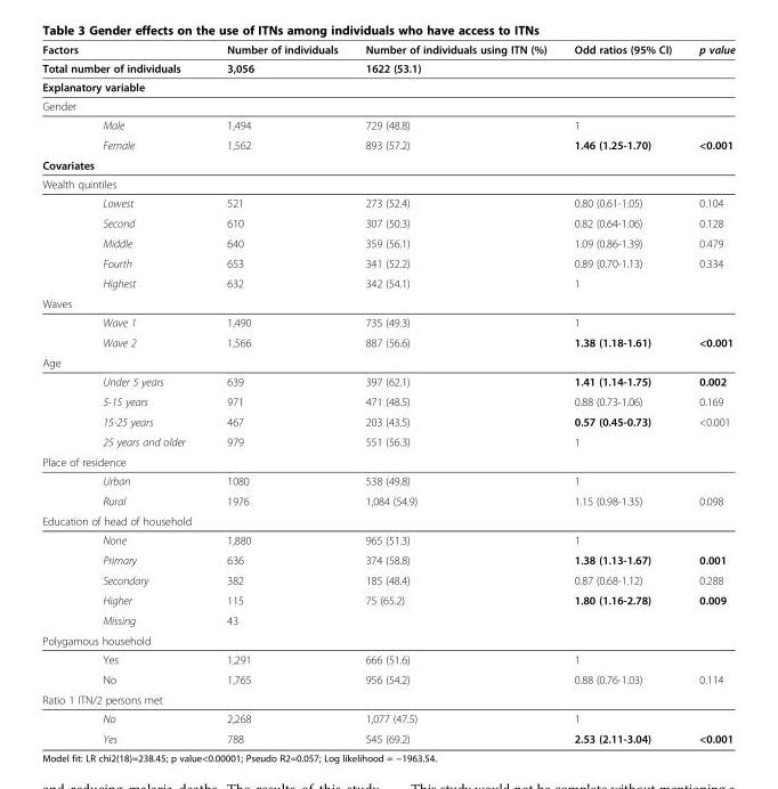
<table><thead><tr><td colspan="2">Factors</td><td>Number of individuals</td><td>Number of individuals using ITN (%)</td><td>Odd ratios (95% CI)</td><td>p value</td></tr></thead><tbody><tr><td colspan="2">Total number of individuals</td><td>3,056</td><td>1622 (53.1)</td><td></td><td></td></tr><tr><td colspan="6">Explanatory variable</td></tr><tr><td colspan="6">Gender</td></tr><tr><td></td><td>Male</td><td>1,494</td><td>729 (48.8)</td><td>1</td><td></td></tr><tr><td></td><td>Female</td><td>1,562</td><td>893 (57.2)</td><td>1.46 (1.25-1.70)</td><td>&lt;0.001</td></tr><tr><td colspan="6">Covariates</td></tr><tr><td colspan="6">Wealth quintiles</td></tr><tr><td></td><td>Lowest</td><td>521</td><td>273 (52.4)</td><td>0.80 (0.61-1.05)</td><td>0.104</td></tr><tr><td></td><td>Second</td><td>610</td><td>307 (50.3)</td><td>0.82 (0.64-1.06)</td><td>0.128</td></tr><tr><td></td><td>Middle</td><td>640</td><td>359 (56.1)</td><td>1.09 (0.86-1.39)</td><td>0.479</td></tr><tr><td></td><td>Fourth</td><td>653</td><td>341 (52.2)</td><td>0.89 (0.70-1.13)</td><td>0.334</td></tr><tr><td></td><td>Highest</td><td>632</td><td>342 (54.1)</td><td>1</td><td></td></tr><tr><td colspan="6">Waves</td></tr><tr><td></td><td>Wave 1</td><td>1,490</td><td>735 (49.3)</td><td>1</td><td></td></tr><tr><td></td><td>Wave 2</td><td>1,566</td><td>887 (56.6)</td><td>1.38 (1.18-1.61)</td><td>&lt;0.001</td></tr><tr><td colspan="6">Age</td></tr><tr><td></td><td>Under 5 years</td><td>639</td><td>397 (62.1)</td><td>1.41 (1.14-1.75)</td><td>0.002</td></tr><tr><td></td><td>5-15 years</td><td>971</td><td>471 (48.5)</td><td>0.88 (0.73-1.06)</td><td>0.169</td></tr><tr><td></td><td>15-25 years</td><td>467</td><td>203 (43.5)</td><td>0.57 (0.45-0.73)</td><td>&lt;0.001</td></tr><tr><td></td><td>25 years and older</td><td>979</td><td>551 (56.3)</td><td>1</td><td></td></tr><tr><td colspan="6">Place of residence</td></tr><tr><td></td><td>Urban</td><td>1080</td><td>538 (49.8)</td><td>1</td><td></td></tr><tr><td></td><td>Rural</td><td>1976</td><td>1,084 (54.9)</td><td>1.15 (0.98-1.35)</td><td>0.098</td></tr><tr><td colspan="6">Education of head of household</td></tr><tr><td></td><td>None</td><td>1,880</td><td>965 (51.3)</td><td>1</td><td></td></tr><tr><td></td><td>Primary</td><td>636</td><td>374 (58.8)</td><td>1.38 (1.13-1.67)</td><td>0.001</td></tr><tr><td></td><td>Secondary</td><td>382</td><td>185 (48.4)</td><td>0.87 (0.68-1.12)</td><td>0.288</td></tr><tr><td></td><td>Higher</td><td>115</td><td>75 (65.2)</td><td>1.80 (1.16-2.78)</td><td>0.009</td></tr><tr><td></td><td>Missing</td><td>43</td><td></td><td></td><td></td></tr><tr><td colspan="6">Polygamous household</td></tr><tr><td></td><td>Yes</td><td>1,291</td><td>666 (51.6)</td><td>1</td><td></td></tr><tr><td></td><td>No</td><td>1,765</td><td>956 (54.2)</td><td>0.88 (0.76-1.03)</td><td>0.114</td></tr><tr><td colspan="6">Ratio 1 ITN/2 persons met</td></tr><tr><td></td><td>No</td><td>2,268</td><td>1,077 (47.5)</td><td>1</td><td></td></tr><tr><td></td><td>Yes</td><td>788</td><td>545 (69.2)</td><td>2.53 (2.11-3.04)</td><td>&lt;0.001</td></tr></tbody></table>